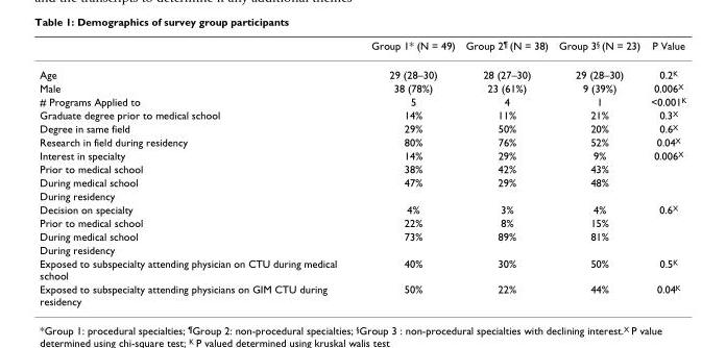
<table><thead><tr><td></td><td>Group 1* (N = 49)</td><td>Group 2<sup>¶</sup> (N = 38)</td><td>Group 3<sup>§</sup> (N = 23)</td><td>P Value</td></tr></thead><tbody><tr><td>Age</td><td>29 (28–30)</td><td>28 (27–30)</td><td>29 (28–30)</td><td>0.2<sup>K</sup></td></tr><tr><td>Male</td><td>38 (78%)</td><td>23 (61%)</td><td>9 (39%)</td><td>0.006<sup>X</sup></td></tr><tr><td># Programs Applied to</td><td>5</td><td>4</td><td>1</td><td>&lt;0.001<sup>K</sup></td></tr><tr><td>Graduate degree prior to medical school</td><td>14%</td><td>11%</td><td>21%</td><td>0.3<sup>X</sup></td></tr><tr><td>Degree in same field</td><td>29%</td><td>50%</td><td>20%</td><td>0.6<sup>X</sup></td></tr><tr><td>Research in field during residency</td><td>80%</td><td>76%</td><td>52%</td><td>0.04<sup>X</sup></td></tr><tr><td>Interest in specialty</td><td>14%</td><td>29%</td><td>9%</td><td>0.006<sup>X</sup></td></tr><tr><td>Prior to medical school</td><td>38%</td><td>42%</td><td>43%</td><td></td></tr><tr><td>During medical school</td><td>47%</td><td>29%</td><td>48%</td><td></td></tr><tr><td colspan="5">During residency</td></tr><tr><td>Decision on specialty</td><td>4%</td><td>3%</td><td>4%</td><td>0.6<sup>X</sup></td></tr><tr><td>Prior to medical school</td><td>22%</td><td>8%</td><td>15%</td><td></td></tr><tr><td>During medical school</td><td>73%</td><td>89%</td><td>81%</td><td></td></tr><tr><td colspan="5">During residency</td></tr><tr><td>Exposed to subspecialty attending physician on CTU during medical school</td><td>40%</td><td>30%</td><td>50%</td><td>0.5<sup>K</sup></td></tr><tr><td>Exposed to subspecialty attending physicians on GIM CTU during residency</td><td>50%</td><td>22%</td><td>44%</td><td>0.04<sup>K</sup></td></tr></tbody></table>